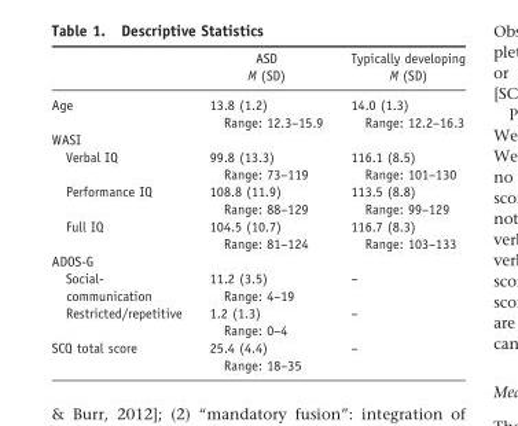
<table><thead><tr><td></td><td>ASD M (SD)</td><td>Typically developing M (SD)</td></tr></thead><tbody><tr><td>Age</td><td>13.8 (1.2) Range: 12.3–15.9</td><td>14.0 (1.3) Range: 12.2–16.3</td></tr><tr><td colspan="3">WASI</td></tr><tr><td>Verbal IQ</td><td>99.8 (13.3) Range: 73–119</td><td>116.1 (8.5) Range: 101–130</td></tr><tr><td>Performance IQ</td><td>108.8 (11.9) Range: 88–129</td><td>113.5 (8.8) Range: 99–129</td></tr><tr><td>Full IQ</td><td>104.5 (10.7) Range: 81–124</td><td>116.7 (8.3) Range: 103–133</td></tr><tr><td colspan="3">ADOS-G</td></tr><tr><td>Social- communication</td><td>11.2 (3.5) Range: 4–19</td><td>–</td></tr><tr><td>Restricted/repetitive</td><td>1.2 (1.3) Range: 0–4</td><td>–</td></tr><tr><td>SCQ total score</td><td>25.4 (4.4) Range: 18–35</td><td>–</td></tr></tbody></table>